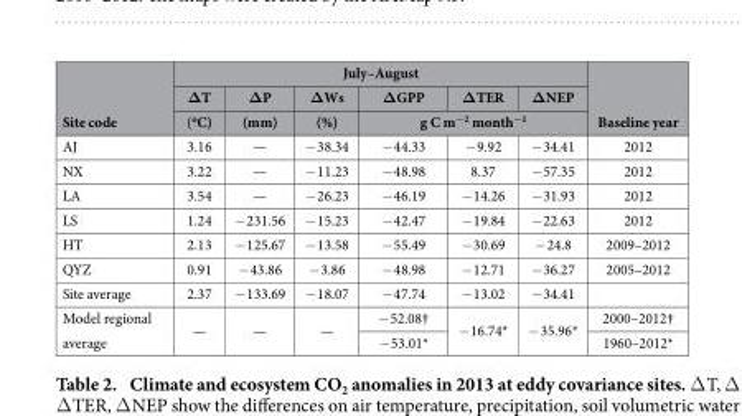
<table><thead><tr><td rowspan="3">Site code</td><td colspan="6">July–August</td><td rowspan="3">Baseline year</td></tr><tr><td rowspan="2">ΔT (<sup>o</sup>C)</td><td rowspan="2">ΔP (mm)</td><td rowspan="2">ΔWs (%)</td><td>ΔGPP</td><td>ΔTER</td><td>ΔNEP</td></tr><tr><td colspan="3">g C m<sup>−2</sup> month<sup>−1</sup></td></tr></thead><tbody><tr><td>AJ</td><td>3.16</td><td>—</td><td>− 38.34</td><td>− 44.33</td><td>− 9.92</td><td>− 34.41</td><td>2012</td></tr><tr><td>NX</td><td>3.22</td><td>—</td><td>− 11.23</td><td>− 48.98</td><td>8.37</td><td>− 57.35</td><td>2012</td></tr><tr><td>LA</td><td>3.54</td><td>—</td><td>− 26.23</td><td>− 46.19</td><td>− 14.26</td><td>− 31.93</td><td>2012</td></tr><tr><td>LS</td><td>1.24</td><td>− 231.56</td><td>− 15.23</td><td>− 42.47</td><td>− 19.84</td><td>− 22.63</td><td>2012</td></tr><tr><td>HT</td><td>2.13</td><td>− 125.67</td><td>− 13.58</td><td>− 55.49</td><td>− 30.69</td><td>− 24.8</td><td>2009–2012</td></tr><tr><td>QYZ</td><td>0.91</td><td>− 43.86</td><td>− 3.86</td><td>− 48.98</td><td>− 12.71</td><td>− 36.27</td><td>2005–2012</td></tr><tr><td>Site average</td><td>2.37</td><td>− 133.69</td><td>− 18.07</td><td>− 47.74</td><td>− 13.02</td><td>− 34.41</td><td></td></tr><tr><td rowspan="2">Model regional average</td><td rowspan="2">—</td><td rowspan="2">—</td><td rowspan="2">—</td><td>− 52.08†</td><td rowspan="2">− 16.74*</td><td rowspan="2">− 35.96*</td><td>2000–2012†</td></tr><tr><td>− 53.01*</td><td>1960–2012*</td></tr></tbody></table>